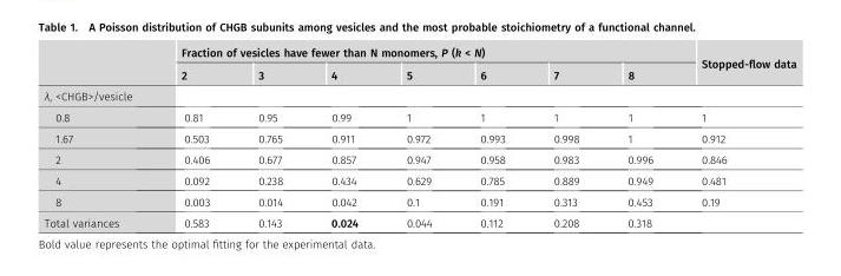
<table><thead><tr><td rowspan="2"></td><td colspan="7">Fraction of vesicles have fewer than N monomers, P (k &lt; N)</td><td rowspan="2">Stopped-flow data</td></tr><tr><td>2</td><td>3</td><td>4</td><td>5</td><td>6</td><td>7</td><td>8</td></tr></thead><tbody><tr><td colspan="9">λ, &lt;CHGB&gt;/vesicle</td></tr><tr><td>0.8</td><td>0.81</td><td>0.95</td><td>0.99</td><td>1</td><td>1</td><td>1</td><td>1</td><td>1</td></tr><tr><td>1.67</td><td>0.503</td><td>0.765</td><td>0.911</td><td>0.972</td><td>0.993</td><td>0.998</td><td>1</td><td>0.912</td></tr><tr><td>2</td><td>0.406</td><td>0.677</td><td>0.857</td><td>0.947</td><td>0.958</td><td>0.983</td><td>0.996</td><td>0.846</td></tr><tr><td>4</td><td>0.092</td><td>0.238</td><td>0.434</td><td>0.629</td><td>0.785</td><td>0.889</td><td>0.949</td><td>0.481</td></tr><tr><td>8</td><td>0.003</td><td>0.014</td><td>0.042</td><td>0.1</td><td>0.191</td><td>0.313</td><td>0.453</td><td>0.19</td></tr><tr><td>Total variances</td><td>0.583</td><td>0.143</td><td>0.024</td><td>0.044</td><td>0.112</td><td>0.208</td><td>0.318</td><td></td></tr></tbody></table>